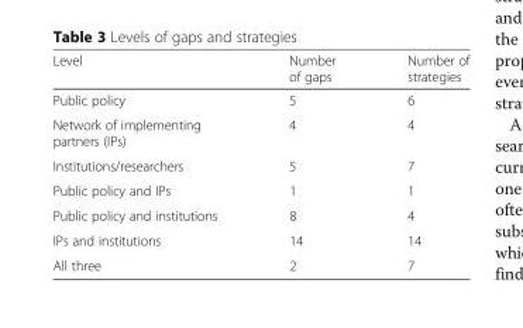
<table><thead><tr><td>Level</td><td>Number of gaps</td><td>Number of strategies</td></tr></thead><tbody><tr><td>Public policy</td><td>5</td><td>6</td></tr><tr><td>Network of implementing partners (IPs)</td><td>4</td><td>4</td></tr><tr><td>Institutions/researchers</td><td>5</td><td>7</td></tr><tr><td>Public policy and IPs</td><td>1</td><td>1</td></tr><tr><td>Public policy and institutions</td><td>8</td><td>4</td></tr><tr><td>IPs and institutions</td><td>14</td><td>14</td></tr><tr><td>All three</td><td>2</td><td>7</td></tr></tbody></table>